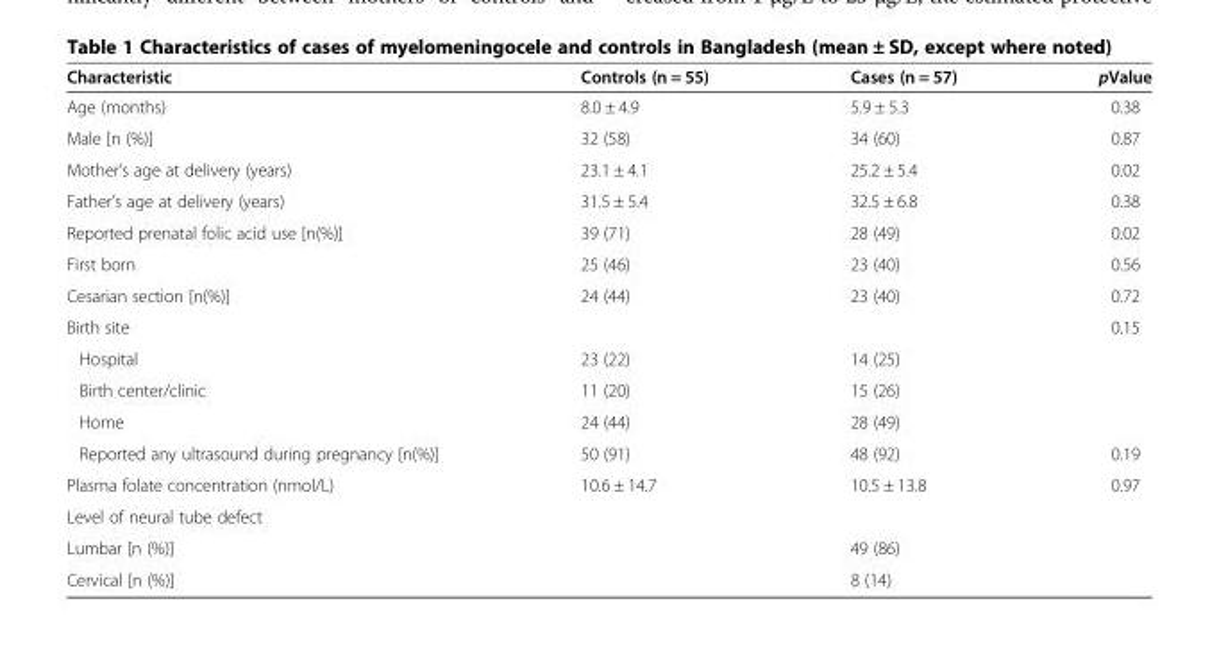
<table><thead><tr><td>Characteristic</td><td>Controls (n = 55)</td><td>Cases (n = 57)</td><td>pValue</td></tr></thead><tbody><tr><td>Age (months)</td><td>8.0 ± 4.9</td><td>5.9 ± 5.3</td><td>0.38</td></tr><tr><td>Male [n (%)]</td><td>32 (58)</td><td>34 (60)</td><td>0.87</td></tr><tr><td>Mother’s age at delivery (years)</td><td>23.1 ± 4.1</td><td>25.2 ± 5.4</td><td>0.02</td></tr><tr><td>Father’s age at delivery (years)</td><td>31.5 ± 5.4</td><td>32.5 ± 6.8</td><td>0.38</td></tr><tr><td>Reported prenatal folic acid use [n(%)]</td><td>39 (71)</td><td>28 (49)</td><td>0.02</td></tr><tr><td>First born</td><td>25 (46)</td><td>23 (40)</td><td>0.56</td></tr><tr><td>Cesarian section [n(%)]</td><td>24 (44)</td><td>23 (40)</td><td>0.72</td></tr><tr><td>Birth site</td><td></td><td></td><td>0.15</td></tr><tr><td>Hospital</td><td>23 (22)</td><td>14 (25)</td><td></td></tr><tr><td>Birth center/clinic</td><td>11 (20)</td><td>15 (26)</td><td></td></tr><tr><td>Home</td><td>24 (44)</td><td>28 (49)</td><td></td></tr><tr><td>Reported any ultrasound during pregnancy [n(%)]</td><td>50 (91)</td><td>48 (92)</td><td>0.19</td></tr><tr><td>Plasma folate concentration (nmol/L)</td><td>10.6 ± 14.7</td><td>10.5 ± 13.8</td><td>0.97</td></tr><tr><td colspan="4">Level of neural tube defect</td></tr><tr><td>Lumbar [n (%)]</td><td></td><td>49 (86)</td><td></td></tr><tr><td>Cervical [n (%)]</td><td></td><td>8 (14)</td><td></td></tr></tbody></table>